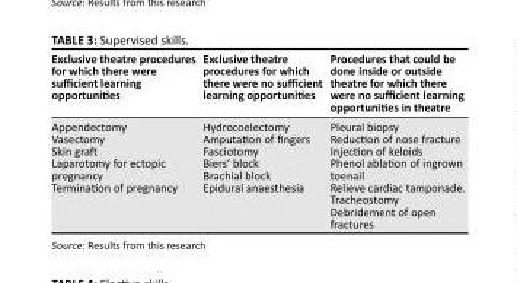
<table><thead><tr><td>Exclusive theatre procedures for which there were sufficient learning opportunities</td><td>Exclusive theatre procedures for which there were no sufficient learning opportunities</td><td>Procedures that could be done inside or outside theatre for which there were no sufficient learning opportunities in theatre</td></tr></thead><tbody><tr><td>Appendectomy Vasectomy Skin graft Laparotomy for ectopic pregnancy Termination of pregnancy</td><td>Hydrocoelectomy Amputation of fingers Fasciotomy Biers’ block Brachial block Epidural anaesthesia</td><td>Pleural biopsy Reduction of nose fracture Injection of keloids Phenol ablation of ingrown toenail Relieve cardiac tamponade. Tracheostomy Debridement of open fractures</td></tr></tbody></table>